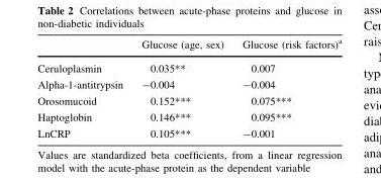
<table><thead><tr><td></td><td>Glucose (age, sex)</td><td>Glucose (risk factors)<sup>a</sup></td></tr></thead><tbody><tr><td>Ceruloplasmin</td><td>0.035**</td><td>0.007</td></tr><tr><td>Alpha-1-antitrypsin</td><td>-0.004</td><td>-0.004</td></tr><tr><td>Orosomucoid</td><td>0.152***</td><td>0.075***</td></tr><tr><td>Haptoglobin</td><td>0.146***</td><td>0.095***</td></tr><tr><td>LnCRP</td><td>0.105***</td><td>-0.001</td></tr></tbody></table>